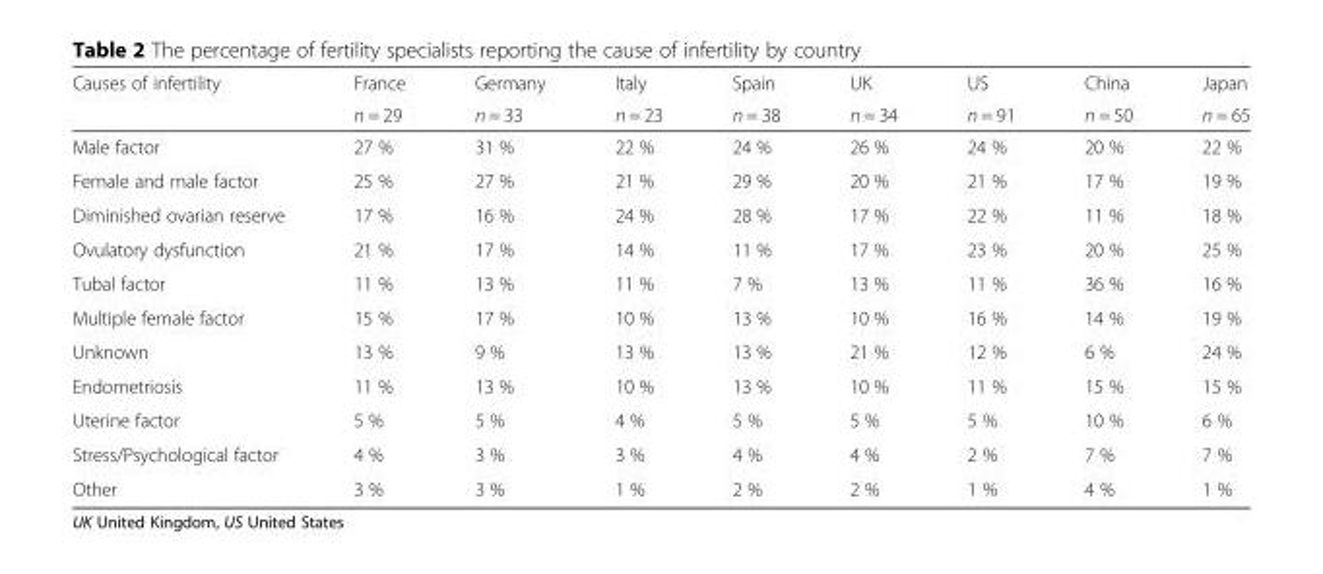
<table><thead><tr><td rowspan="2">Causes of infertility</td><td rowspan="2">France n = 29</td><td rowspan="2">Germany n = 33</td><td rowspan="2">Italy n = 23</td><td rowspan="2">Spain n = 38</td><td rowspan="2">UK n = 34</td><td rowspan="2">US n = 91</td><td rowspan="2">China n = 50</td><td rowspan="2">Japan n = 65</td></tr><tr></tr></thead><tbody><tr><td>Male factor</td><td>27 %</td><td>31 %</td><td>22 %</td><td>24 %</td><td>26 %</td><td>24 %</td><td>20 %</td><td>22 %</td></tr><tr><td>Female and male factor</td><td>25 %</td><td>27 %</td><td>21 %</td><td>29 %</td><td>20 %</td><td>21 %</td><td>17 %</td><td>19 %</td></tr><tr><td>Diminished ovarian reserve</td><td>17 %</td><td>16 %</td><td>24 %</td><td>28 %</td><td>17 %</td><td>22 %</td><td>11 %</td><td>18 %</td></tr><tr><td>Ovulatory dysfunction</td><td>21 %</td><td>17 %</td><td>14 %</td><td>11 %</td><td>17 %</td><td>23 %</td><td>20 %</td><td>25 %</td></tr><tr><td>Tubal factor</td><td>11 %</td><td>13 %</td><td>11 %</td><td>7 %</td><td>13 %</td><td>11 %</td><td>36 %</td><td>16 %</td></tr><tr><td>Multiple female factor</td><td>15 %</td><td>17 %</td><td>10 %</td><td>13 %</td><td>10 %</td><td>16 %</td><td>14 %</td><td>19 %</td></tr><tr><td>Unknown</td><td>13 %</td><td>9 %</td><td>13 %</td><td>13 %</td><td>21 %</td><td>12 %</td><td>6 %</td><td>24 %</td></tr><tr><td>Endometriosis</td><td>11 %</td><td>13 %</td><td>10 %</td><td>13 %</td><td>10 %</td><td>11 %</td><td>15 %</td><td>15 %</td></tr><tr><td>Uterine factor</td><td>5 %</td><td>5 %</td><td>4 %</td><td>5 %</td><td>5 %</td><td>5 %</td><td>10 %</td><td>6 %</td></tr><tr><td>Stress/Psychological factor</td><td>4 %</td><td>3 %</td><td>3 %</td><td>4 %</td><td>4 %</td><td>2 %</td><td>7 %</td><td>7 %</td></tr><tr><td>Other</td><td>3 %</td><td>3 %</td><td>1 %</td><td>2 %</td><td>2 %</td><td>1 %</td><td>4 %</td><td>1 %</td></tr></tbody></table>